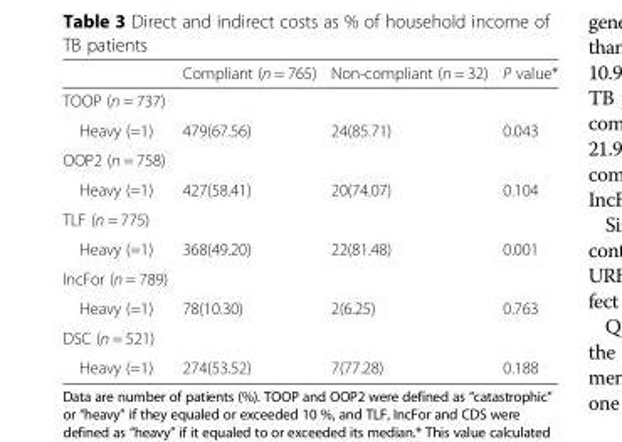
<table><thead><tr><td></td><td>Compliant (n = 765)</td><td>Non-compliant (n = 32)</td><td>P value*</td></tr></thead><tbody><tr><td colspan="4">TOOP (n = 737)</td></tr><tr><td>Heavy (=1)</td><td>479(67.56)</td><td>24(85.71)</td><td>0.043</td></tr><tr><td colspan="4">OOP2 (n = 758)</td></tr><tr><td>Heavy (=1)</td><td>427(58.41)</td><td>20(74.07)</td><td>0.104</td></tr><tr><td colspan="4">TLF (n = 775)</td></tr><tr><td>Heavy (=1)</td><td>368(49.20)</td><td>22(81.48)</td><td>0.001</td></tr><tr><td colspan="4">IncFor (n = 789)</td></tr><tr><td>Heavy (=1)</td><td>78(10.30)</td><td>2(6.25)</td><td>0.763</td></tr><tr><td colspan="4">DSC (n = 521)</td></tr><tr><td>Heavy (=1)</td><td>274(53.52)</td><td>7(77.28)</td><td>0.188</td></tr></tbody></table>